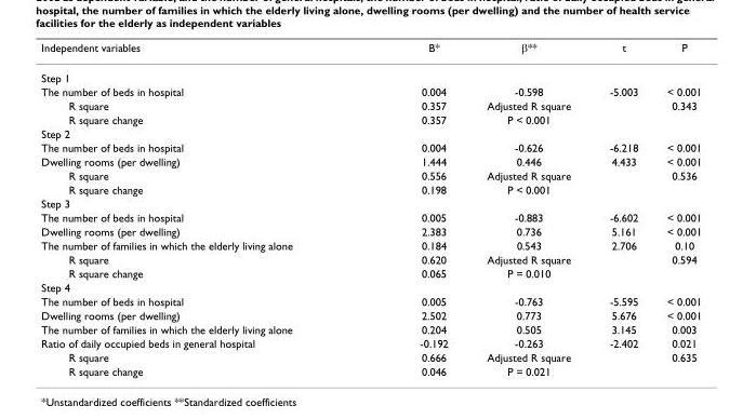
<table><thead><tr><td>Independent variables</td><td>B*</td><td>β**</td><td>t</td><td>P</td></tr></thead><tbody><tr><td colspan="5">Step 1</td></tr><tr><td>The number of beds in hospital</td><td>0.004</td><td>-0.598</td><td>-5.003</td><td>&lt; 0.001</td></tr><tr><td>R square</td><td>0.357</td><td>Adjusted R square</td><td></td><td>0.343</td></tr><tr><td>R square change</td><td>0.357</td><td>P &lt; 0.001</td><td></td><td></td></tr><tr><td colspan="5">Step 2</td></tr><tr><td>The number of beds in hospital</td><td>0.004</td><td>-0.626</td><td>-6.218</td><td>&lt; 0.001</td></tr><tr><td>Dwelling rooms (per dwelling)</td><td>1.444</td><td>0.446</td><td>4.433</td><td>&lt; 0.001</td></tr><tr><td>R square</td><td>0.556</td><td>Adjusted R square</td><td></td><td>0.536</td></tr><tr><td>R square change</td><td>0.198</td><td>P &lt; 0.001</td><td></td><td></td></tr><tr><td colspan="5">Step 3</td></tr><tr><td>The number of beds in hospital</td><td>0.005</td><td>-0.883</td><td>-6.602</td><td>&lt; 0.001</td></tr><tr><td>Dwelling rooms (per dwelling)</td><td>2.383</td><td>0.736</td><td>5.161</td><td>&lt; 0.001</td></tr><tr><td>The number of families in which the elderly living alone</td><td>0.184</td><td>0.543</td><td>2.706</td><td>0.10</td></tr><tr><td>R square</td><td>0.620</td><td>Adjusted R square</td><td></td><td>0.594</td></tr><tr><td>R square change</td><td>0.065</td><td>P = 0.010</td><td></td><td></td></tr><tr><td colspan="5">Step 4</td></tr><tr><td>The number of beds in hospital</td><td>0.005</td><td>-0.763</td><td>-5.595</td><td>&lt; 0.001</td></tr><tr><td>Dwelling rooms (per dwelling)</td><td>2.502</td><td>0.773</td><td>5.676</td><td>&lt; 0.001</td></tr><tr><td>The number of families in which the elderly living alone</td><td>0.204</td><td>0.505</td><td>3.145</td><td>0.003</td></tr><tr><td>Ratio of daily occupied beds in general hospital</td><td>-0.192</td><td>-0.263</td><td>-2.402</td><td>0.021</td></tr><tr><td>R square</td><td>0.666</td><td>Adjusted R square</td><td></td><td>0.635</td></tr><tr><td>R square change</td><td>0.046</td><td>P = 0.021</td><td></td><td></td></tr></tbody></table>